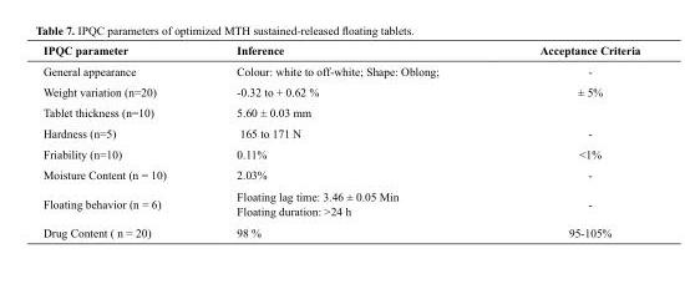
<table><thead><tr><td>IPQC parameter</td><td>Inference</td><td>Acceptance Criteria</td></tr></thead><tbody><tr><td>General appearance</td><td>Colour: white to off-white; Shape: Oblong;</td><td>-</td></tr><tr><td>Weight variation (n=20)</td><td>-0.32 to + 0.62 %</td><td>± 5%</td></tr><tr><td>Tablet thickness (n=10)</td><td>5.60 ± 0.03 mm</td><td></td></tr><tr><td>Hardness (n=5)</td><td>165 to 171 N</td><td>-</td></tr><tr><td>Friability (n=10)</td><td>0.11%</td><td>&lt;1%</td></tr><tr><td>Moisture Content (n = 10)</td><td>2.03%</td><td>-</td></tr><tr><td>Floating behavior (n = 6)</td><td>Floating lag time: 3.46 ± 0.05 Min Floating duration: &gt;24 h</td><td>-</td></tr><tr><td>Drug Content ( n = 20)</td><td>98 %</td><td>95-105%</td></tr></tbody></table>